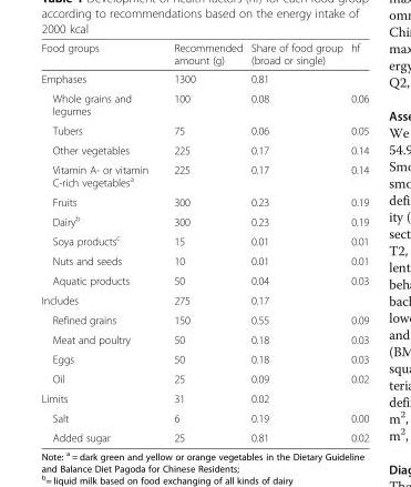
<table><thead><tr><td>Food groups</td><td>Recommended amount (g)</td><td>Share of food group (broad or single)</td><td>hf</td></tr></thead><tbody><tr><td>Emphases</td><td>1300</td><td>0.81</td><td></td></tr><tr><td>Whole grains and legumes</td><td>100</td><td>0.08</td><td>0.06</td></tr><tr><td>Tubers</td><td>75</td><td>0.06</td><td>0.05</td></tr><tr><td>Other vegetables</td><td>225</td><td>0.17</td><td>0.14</td></tr><tr><td>Vitamin A- or vitamin C-rich vegetables<sup>a</sup></td><td>225</td><td>0.17</td><td>0.14</td></tr><tr><td>Fruits</td><td>300</td><td>0.23</td><td>0.19</td></tr><tr><td>Dairy<sup>b</sup></td><td>300</td><td>0.23</td><td>0.19</td></tr><tr><td>Soya products<sup>c</sup></td><td>15</td><td>0.01</td><td>0.01</td></tr><tr><td>Nuts and seeds</td><td>10</td><td>0.01</td><td>0.01</td></tr><tr><td>Aquatic products</td><td>50</td><td>0.04</td><td>0.03</td></tr><tr><td>Includes</td><td>275</td><td>0.17</td><td></td></tr><tr><td>Refined grains</td><td>150</td><td>0.55</td><td>0.09</td></tr><tr><td>Meat and poultry</td><td>50</td><td>0.18</td><td>0.03</td></tr><tr><td>Eggs</td><td>50</td><td>0.18</td><td>0.03</td></tr><tr><td>Oil</td><td>25</td><td>0.09</td><td>0.02</td></tr><tr><td>Limits</td><td>31</td><td>0.02</td><td></td></tr><tr><td>Salt</td><td>6</td><td>0.19</td><td>0.00</td></tr><tr><td>Added sugar</td><td>25</td><td>0.81</td><td>0.02</td></tr></tbody></table>